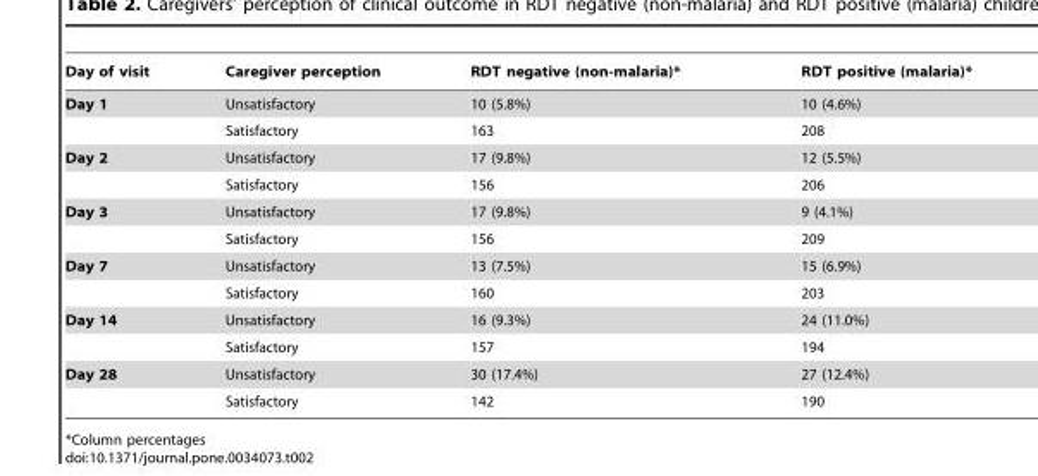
<table><thead><tr><td>Day of visit</td><td>Caregiver perception</td><td>RDT negative (non-malaria)*</td><td>RDT positive (malaria)*</td></tr></thead><tbody><tr><td rowspan="2">Day 1</td><td>Unsatisfactory</td><td>10 (5.8%)</td><td>10 (4.6%)</td></tr><tr><td>Satisfactory</td><td>163</td><td>208</td></tr><tr><td rowspan="2">Day 2</td><td>Unsatisfactory</td><td>17 (9.8%)</td><td>12 (5.5%)</td></tr><tr><td>Satisfactory</td><td>156</td><td>206</td></tr><tr><td rowspan="2">Day 3</td><td>Unsatisfactory</td><td>17 (9.8%)</td><td>9 (4.1%)</td></tr><tr><td>Satisfactory</td><td>156</td><td>209</td></tr><tr><td rowspan="2">Day 7</td><td>Unsatisfactory</td><td>13 (7.5%)</td><td>15 (6.9%)</td></tr><tr><td>Satisfactory</td><td>160</td><td>203</td></tr><tr><td rowspan="2">Day 14</td><td>Unsatisfactory</td><td>16 (9.3%)</td><td>24 (11.0%)</td></tr><tr><td>Satisfactory</td><td>157</td><td>194</td></tr><tr><td rowspan="2">Day 28</td><td>Unsatisfactory</td><td>30 (17.4%)</td><td>27 (12.4%)</td></tr><tr><td>Satisfactory</td><td>142</td><td>190</td></tr></tbody></table>